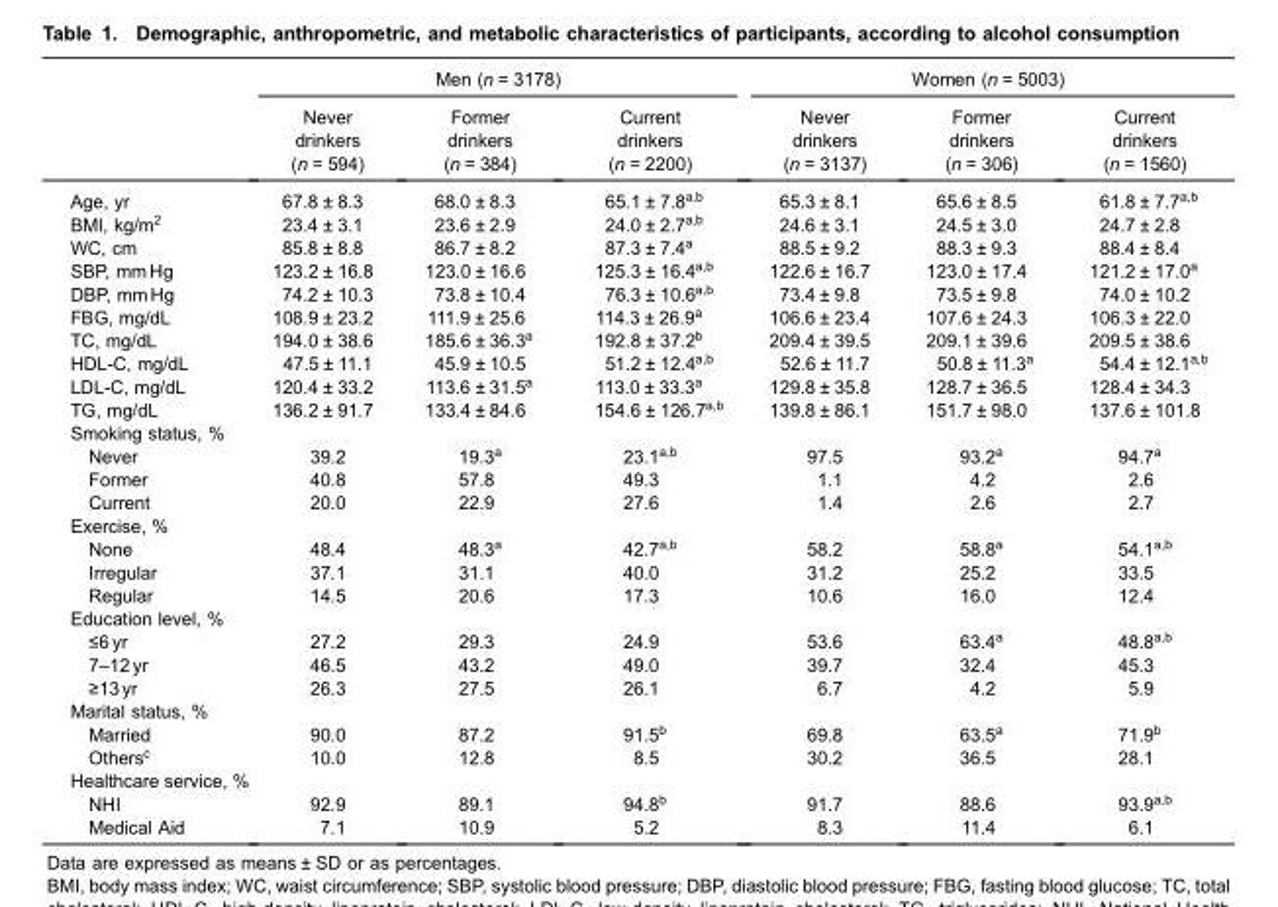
<table><thead><tr><td rowspan="2"></td><td colspan="3">Men (n = 3178)</td><td colspan="3">Women (n = 5003)</td></tr><tr><td>Never drinkers (n = 594)</td><td>Former drinkers (n = 384)</td><td>Current drinkers (n = 2200)</td><td>Never drinkers (n = 3137)</td><td>Former drinkers (n = 306)</td><td>Current drinkers (n = 1560)</td></tr></thead><tbody><tr><td>Age, yr</td><td>67.8 ± 8.3</td><td>68.0 ± 8.3</td><td>65.1 ± 7.8<sup>a,b</sup></td><td>65.3 ± 8.1</td><td>65.6 ± 8.5</td><td>61.8 ± 7.7<sup>a,b</sup></td></tr><tr><td>BMI, kg/m<sup>2</sup></td><td>23.4 ± 3.1</td><td>23.6 ± 2.9</td><td>24.0 ± 2.7<sup>a,b</sup></td><td>24.6 ± 3.1</td><td>24.5 ± 3.0</td><td>24.7 ± 2.8</td></tr><tr><td>WC, cm</td><td>85.8 ± 8.8</td><td>86.7 ± 8.2</td><td>87.3 ± 7.4<sup>a</sup></td><td>88.5 ± 9.2</td><td>88.3 ± 9.3</td><td>88.4 ± 8.4</td></tr><tr><td>SBP, mm Hg</td><td>123.2 ± 16.8</td><td>123.0 ± 16.6</td><td>125.3 ± 16.4<sup>a,b</sup></td><td>122.6 ± 16.7</td><td>123.0 ± 17.4</td><td>121.2 ± 17.0<sup>a</sup></td></tr><tr><td>DBP, mm Hg</td><td>74.2 ± 10.3</td><td>73.8 ± 10.4</td><td>76.3 ± 10.6<sup>a,b</sup></td><td>73.4 ± 9.8</td><td>73.5 ± 9.8</td><td>74.0 ± 10.2</td></tr><tr><td>FBG, mg/dL</td><td>108.9 ± 23.2</td><td>111.9 ± 25.6</td><td>114.3 ± 26.9<sup>a</sup></td><td>106.6 ± 23.4</td><td>107.6 ± 24.3</td><td>106.3 ± 22.0</td></tr><tr><td>TC, mg/dL</td><td>194.0 ± 38.6</td><td>185.6 ± 36.3<sup>a</sup></td><td>192.8 ± 37.2<sup>b</sup></td><td>209.4 ± 39.5</td><td>209.1 ± 39.6</td><td>209.5 ± 38.6</td></tr><tr><td>HDL-C, mg/dL</td><td>47.5 ± 11.1</td><td>45.9 ± 10.5</td><td>51.2 ± 12.4<sup>a,b</sup></td><td>52.6 ± 11.7</td><td>50.8 ± 11.3<sup>a</sup></td><td>54.4 ± 12.1<sup>a,b</sup></td></tr><tr><td>LDL-C, mg/dL</td><td>120.4 ± 33.2</td><td>113.6 ± 31.5<sup>a</sup></td><td>113.0 ± 33.3<sup>a</sup></td><td>129.8 ± 35.8</td><td>128.7 ± 36.5</td><td>128.4 ± 34.3</td></tr><tr><td>TG, mg/dL</td><td>136.2 ± 91.7</td><td>133.4 ± 84.6</td><td>154.6 ± 126.7<sup>a,b</sup></td><td>139.8 ± 86.1</td><td>151.7 ± 98.0</td><td>137.6 ± 101.8</td></tr><tr><td colspan="7">Smoking status, %</td></tr><tr><td>Never</td><td>39.2</td><td>19.3<sup>a</sup></td><td>23.1<sup>a,b</sup></td><td>97.5</td><td>93.2<sup>a</sup></td><td>94.7<sup>a</sup></td></tr><tr><td>Former</td><td>40.8</td><td>57.8</td><td>49.3</td><td>1.1</td><td>4.2</td><td>2.6</td></tr><tr><td>Current</td><td>20.0</td><td>22.9</td><td>27.6</td><td>1.4</td><td>2.6</td><td>2.7</td></tr><tr><td colspan="7">Exercise, %</td></tr><tr><td>None</td><td>48.4</td><td>48.3<sup>a</sup></td><td>42.7<sup>a,b</sup></td><td>58.2</td><td>58.8<sup>a</sup></td><td>54.1<sup>a,b</sup></td></tr><tr><td>Irregular</td><td>37.1</td><td>31.1</td><td>40.0</td><td>31.2</td><td>25.2</td><td>33.5</td></tr><tr><td>Regular</td><td>14.5</td><td>20.6</td><td>17.3</td><td>10.6</td><td>16.0</td><td>12.4</td></tr><tr><td colspan="7">Education level, %</td></tr><tr><td>≤6 yr</td><td>27.2</td><td>29.3</td><td>24.9</td><td>53.6</td><td>63.4<sup>a</sup></td><td>48.8<sup>a,b</sup></td></tr><tr><td>7–12 yr</td><td>46.5</td><td>43.2</td><td>49.0</td><td>39.7</td><td>32.4</td><td>45.3</td></tr><tr><td>≥13 yr</td><td>26.3</td><td>27.5</td><td>26.1</td><td>6.7</td><td>4.2</td><td>5.9</td></tr><tr><td colspan="7">Marital status, %</td></tr><tr><td>Married</td><td>90.0</td><td>87.2</td><td>91.5<sup>b</sup></td><td>69.8</td><td>63.5<sup>a</sup></td><td>71.9<sup>b</sup></td></tr><tr><td>Others<sup>c</sup></td><td>10.0</td><td>12.8</td><td>8.5</td><td>30.2</td><td>36.5</td><td>28.1</td></tr><tr><td colspan="7">Healthcare service, %</td></tr><tr><td>NHI</td><td>92.9</td><td>89.1</td><td>94.8<sup>b</sup></td><td>91.7</td><td>88.6</td><td>93.9<sup>a,b</sup></td></tr><tr><td>Medical Aid</td><td>7.1</td><td>10.9</td><td>5.2</td><td>8.3</td><td>11.4</td><td>6.1</td></tr></tbody></table>